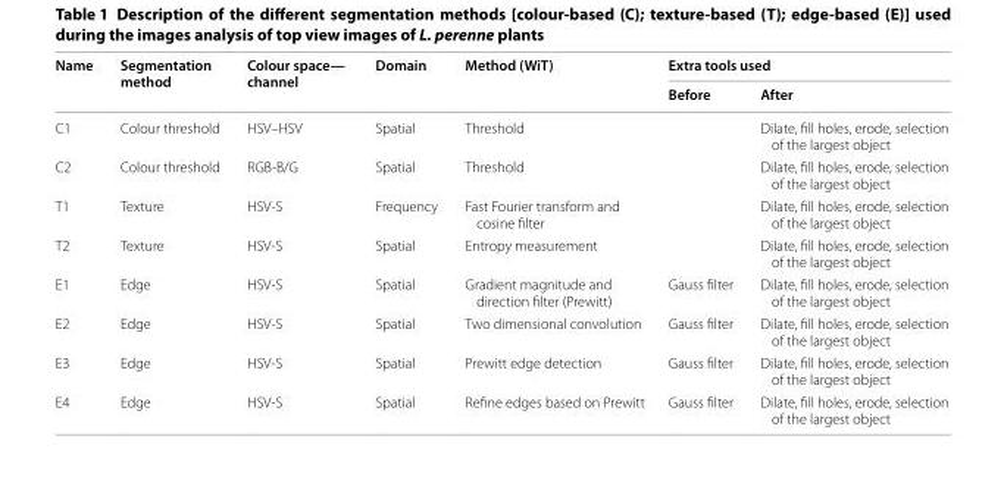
<table><thead><tr><td rowspan="2">Name</td><td rowspan="2">Segmentation method</td><td rowspan="2">Colour space— channel</td><td rowspan="2">Domain</td><td rowspan="2">Method (WiT)</td><td colspan="2">Extra tools used</td></tr><tr><td>Before</td><td>After</td></tr></thead><tbody><tr><td>C1</td><td>Colour threshold</td><td>HSV–HSV</td><td>Spatial</td><td>Threshold</td><td></td><td>Dilate, fill holes, erode, selection of the largest object</td></tr><tr><td>C2</td><td>Colour threshold</td><td>RGB‑B/G</td><td>Spatial</td><td>Threshold</td><td></td><td>Dilate, fill holes, erode, selection of the largest object</td></tr><tr><td>T1</td><td>Texture</td><td>HSV‑S</td><td>Frequency</td><td>Fast Fourier transform and cosine filter</td><td></td><td>Dilate, fill holes, erode, selection of the largest object</td></tr><tr><td>T2</td><td>Texture</td><td>HSV‑S</td><td>Spatial</td><td>Entropy measurement</td><td></td><td>Dilate, fill holes, erode, selection of the largest object</td></tr><tr><td>E1</td><td>Edge</td><td>HSV‑S</td><td>Spatial</td><td>Gradient magnitude and direction filter (Prewitt)</td><td>Gauss filter</td><td>Dilate, fill holes, erode, selection of the largest object</td></tr><tr><td>E2</td><td>Edge</td><td>HSV‑S</td><td>Spatial</td><td>Two dimensional convolution</td><td>Gauss filter</td><td>Dilate, fill holes, erode, selection of the largest object</td></tr><tr><td>E3</td><td>Edge</td><td>HSV‑S</td><td>Spatial</td><td>Prewitt edge detection</td><td>Gauss filter</td><td>Dilate, fill holes, erode, selection of the largest object</td></tr><tr><td>E4</td><td>Edge</td><td>HSV‑S</td><td>Spatial</td><td>Refine edges based on Prewitt</td><td>Gauss filter</td><td>Dilate, fill holes, erode, selection of the largest object</td></tr></tbody></table>